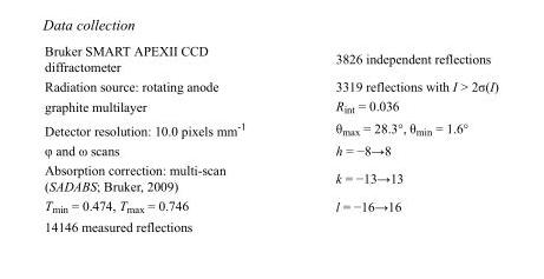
<table><tbody><tr><td>Bruker SMART APEXII CCD diffractometer</td><td>3826 independent reflections</td></tr><tr><td>Radiation source: rotating anode</td><td>3319 reflections with I &gt; 2σ(I)</td></tr><tr><td>graphite multilayer</td><td>R<sub>int</sub> = 0.036</td></tr><tr><td>Detector resolution: 10.0 pixels mm<sup>-1</sup></td><td>θ<sub>max</sub> = 28.3°, θ<sub>min</sub> = 1.6°</td></tr><tr><td>φ and ω scans</td><td>h = −8→8</td></tr><tr><td>Absorption correction: multi-scan (SADABS; Bruker, 2009)</td><td>k = −13→13</td></tr><tr><td>T<sub>min</sub> = 0.474, T<sub>max</sub> = 0.746</td><td>l = −16→16</td></tr><tr><td>14146 measured reflections</td><td></td></tr></tbody></table>